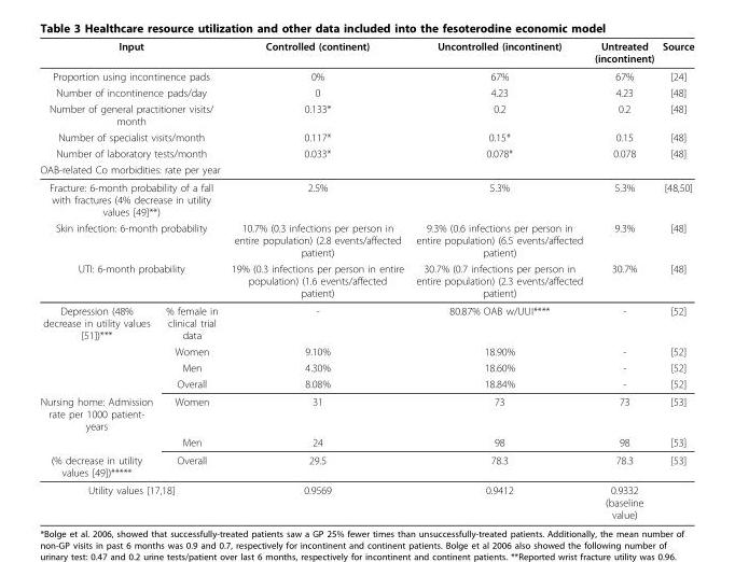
<table><thead><tr><td colspan="2">Input</td><td>Controlled (continent)</td><td>Uncontrolled (incontinent)</td><td>Untreated (incontinent)</td><td>Source</td></tr></thead><tbody><tr><td colspan="2">Proportion using incontinence pads</td><td>0%</td><td>67%</td><td>67%</td><td>[24]</td></tr><tr><td colspan="2">Number of incontinence pads/day</td><td>0</td><td>4.23</td><td>4.23</td><td>[48]</td></tr><tr><td colspan="2">Number of general practitioner visits/ month</td><td>0.133*</td><td>0.2</td><td>0.2</td><td>[48]</td></tr><tr><td colspan="2">Number of specialist visits/month</td><td>0.117*</td><td>0.15*</td><td>0.15</td><td>[48]</td></tr><tr><td colspan="2">Number of laboratory tests/month</td><td>0.033*</td><td>0.078*</td><td>0.078</td><td>[48]</td></tr><tr><td colspan="6">OAB-related Co morbidities: rate per year</td></tr><tr><td colspan="2">Fracture: 6-month probability of a fall with fractures (4% decrease in utility values [49]**)</td><td>2.5%</td><td>5.3%</td><td>5.3%</td><td>[48,50]</td></tr><tr><td colspan="2">Skin infection: 6-month probability</td><td>10.7% (0.3 infections per person in entire population) (2.8 events/affected patient)</td><td>9.3% (0.6 infections per person in entire population) (6.5 events/affected patient)</td><td>9.3%</td><td>[48]</td></tr><tr><td colspan="2">UTI: 6-month probability</td><td>19% (0.3 infections per person in entire population) (1.6 events/affected patient)</td><td>30.7% (0.7 infections per person in entire population) (2.3 events/affected patient)</td><td>30.7%</td><td>[48]</td></tr><tr><td rowspan="4">Depression (48% decrease in utility values [51])***</td><td>% female in clinical trial data</td><td>-</td><td>80.87% OAB w/UUI****</td><td>-</td><td>[52]</td></tr><tr><td>Women</td><td>9.10%</td><td>18.90%</td><td>-</td><td>[52]</td></tr><tr><td>Men</td><td>4.30%</td><td>18.60%</td><td>-</td><td>[52]</td></tr><tr><td>Overall</td><td>8.08%</td><td>18.84%</td><td>-</td><td>[52]</td></tr><tr><td rowspan="2">Nursing home: Admission rate per 1000 patient- years</td><td>Women</td><td>31</td><td>73</td><td>73</td><td>[53]</td></tr><tr><td>Men</td><td>24</td><td>98</td><td>98</td><td>[53]</td></tr><tr><td>(% decrease in utility values [49])*****</td><td>Overall</td><td>29.5</td><td>78.3</td><td>78.3</td><td>[53]</td></tr><tr><td colspan="2">Utility values [17,18]</td><td>0.9569</td><td>0.9412</td><td>0.9332 (baseline value)</td><td></td></tr></tbody></table>